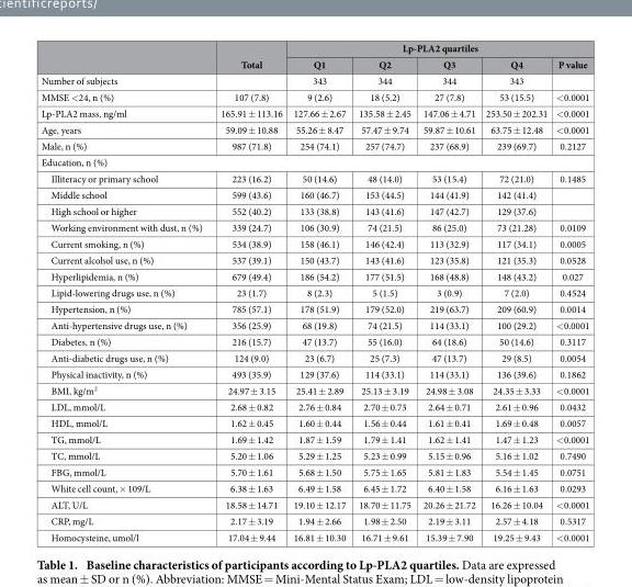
<table><thead><tr><td rowspan="2"></td><td rowspan="2">Total</td><td colspan="5">Lp-PLA2 quartiles</td></tr><tr><td>Q1</td><td>Q2</td><td>Q3</td><td>Q4</td><td>P value</td></tr></thead><tbody><tr><td>Number of subjects</td><td></td><td>343</td><td>344</td><td>344</td><td>343</td><td></td></tr><tr><td>MMSE &lt; 24, n (%)</td><td>107 (7.8)</td><td>9 (2.6)</td><td>18 (5.2)</td><td>27 (7.8)</td><td>53 (15.5)</td><td>&lt; 0.0001</td></tr><tr><td>Lp-PLA2 mass, ng/ml</td><td>165.91 ± 113.16</td><td>127.66 ± 2.67</td><td>135.58 ± 2.45</td><td>147.06 ± 4.71</td><td>253.50 ± 202.31</td><td>&lt; 0.0001</td></tr><tr><td>Age, years</td><td>59.09 ± 10.88</td><td>55.26 ± 8.47</td><td>57.47 ± 9.74</td><td>59.87 ± 10.61</td><td>63.75 ± 12.48</td><td>&lt; 0.0001</td></tr><tr><td>Male, n (%)</td><td>987 (71.8)</td><td>254 (74.1)</td><td>257 (74.7)</td><td>237 (68.9)</td><td>239 (69.7)</td><td>0.2127</td></tr><tr><td colspan="7">Education, n (%)</td></tr><tr><td>Illiteracy or primary school</td><td>223 (16.2)</td><td>50 (14.6)</td><td>48 (14.0)</td><td>53 (15.4)</td><td>72 (21.0)</td><td>0.1485</td></tr><tr><td>Middle school</td><td>599 (43.6)</td><td>160 (46.7)</td><td>153 (44.5)</td><td>144 (41.9)</td><td>142 (41.4)</td><td></td></tr><tr><td>High school or higher</td><td>552 (40.2)</td><td>133 (38.8)</td><td>143 (41.6)</td><td>147 (42.7)</td><td>129 (37.6)</td><td></td></tr><tr><td>Working environment with dust, n (%)</td><td>339 (24.7)</td><td>106 (30.9)</td><td>74 (21.5)</td><td>86 (25.0)</td><td>73 (21.28)</td><td>0.0109</td></tr><tr><td>Current smoking, n (%)</td><td>534 (38.9)</td><td>158 (46.1)</td><td>146 (42.4)</td><td>113 (32.9)</td><td>117 (34.1)</td><td>0.0005</td></tr><tr><td>Current alcohol use, n (%)</td><td>537 (39.1)</td><td>150 (43.7)</td><td>143 (41.6)</td><td>123 (35.8)</td><td>121 (35.3)</td><td>0.0528</td></tr><tr><td>Hyperlipidemia, n (%)</td><td>679 (49.4)</td><td>186 (54.2)</td><td>177 (51.5)</td><td>168 (48.8)</td><td>148 (43.2)</td><td>0.027</td></tr><tr><td>Lipid-lowering drugs use, n (%)</td><td>23 (1.7)</td><td>8 (2.3)</td><td>5 (1.5)</td><td>3 (0.9)</td><td>7 (2.0)</td><td>0.4524</td></tr><tr><td>Hypertension, n (%)</td><td>785 (57.1)</td><td>178 (51.9)</td><td>179 (52.0)</td><td>219 (63.7)</td><td>209 (60.9)</td><td>0.0014</td></tr><tr><td>Anti-hypertensive drugs use, n (%)</td><td>356 (25.9)</td><td>68 (19.8)</td><td>74 (21.5)</td><td>114 (33.1)</td><td>100 (29.2)</td><td>&lt; 0.0001</td></tr><tr><td>Diabetes, n (%)</td><td>216 (15.7)</td><td>47 (13.7)</td><td>55 (16.0)</td><td>64 (18.6)</td><td>50 (14.6)</td><td>0.3117</td></tr><tr><td>Anti-diabetic drugs use, n (%)</td><td>124 (9.0)</td><td>23 (6.7)</td><td>25 (7.3)</td><td>47 (13.7)</td><td>29 (8.5)</td><td>0.0054</td></tr><tr><td>Physical inactivity, n (%)</td><td>493 (35.9)</td><td>129 (37.6)</td><td>114 (33.1)</td><td>114 (33.1)</td><td>136 (39.6)</td><td>0.1862</td></tr><tr><td>BMI, kg/m<sup>2</sup></td><td>24.97 ± 3.15</td><td>25.41 ± 2.89</td><td>25.13 ± 3.19</td><td>24.98 ± 3.08</td><td>24.35 ± 3.33</td><td>&lt; 0.0001</td></tr><tr><td>LDL, mmol/L</td><td>2.68 ± 0.82</td><td>2.76 ± 0.84</td><td>2.70 ± 0.73</td><td>2.64 ± 0.71</td><td>2.61 ± 0.96</td><td>0.0432</td></tr><tr><td>HDL, mmol/L</td><td>1.62 ± 0.45</td><td>1.60 ± 0.44</td><td>1.56 ± 0.44</td><td>1.61 ± 0.41</td><td>1.69 ± 0.48</td><td>0.0057</td></tr><tr><td>TG, mmol/L</td><td>1.69 ± 1.42</td><td>1.87 ± 1.59</td><td>1.79 ± 1.41</td><td>1.62 ± 1.41</td><td>1.47 ± 1.23</td><td>&lt; 0.0001</td></tr><tr><td>TC, mmol/L</td><td>5.20 ± 1.06</td><td>5.29 ± 1.25</td><td>5.23 ± 0.99</td><td>5.15 ± 0.96</td><td>5.16 ± 1.02</td><td>0.7490</td></tr><tr><td>FBG, mmol/L</td><td>5.70 ± 1.61</td><td>5.68 ± 1.50</td><td>5.75 ± 1.65</td><td>5.81 ± 1.83</td><td>5.54 ± 1.45</td><td>0.0751</td></tr><tr><td>White cell count, × 109/L</td><td>6.38 ± 1.63</td><td>6.49 ± 1.58</td><td>6.45 ± 1.72</td><td>6.40 ± 1.58</td><td>6.16 ± 1.63</td><td>0.0293</td></tr><tr><td>ALT, U/L</td><td>18.58 ± 14.71</td><td>19.10 ± 12.17</td><td>18.70 ± 11.75</td><td>20.26 ± 21.72</td><td>16.26 ± 10.04</td><td>&lt; 0.0001</td></tr><tr><td>CRP, mg/L</td><td>2.17 ± 3.19</td><td>1.94 ± 2.66</td><td>1.98 ± 2.50</td><td>2.19 ± 3.11</td><td>2.57 ± 4.18</td><td>0.5317</td></tr><tr><td>Homocysteine, umol/l</td><td>17.04 ± 9.44</td><td>16.81 ± 10.30</td><td>16.71 ± 9.61</td><td>15.39 ± 7.90</td><td>19.25 ± 9.43</td><td>&lt; 0.0001</td></tr></tbody></table>